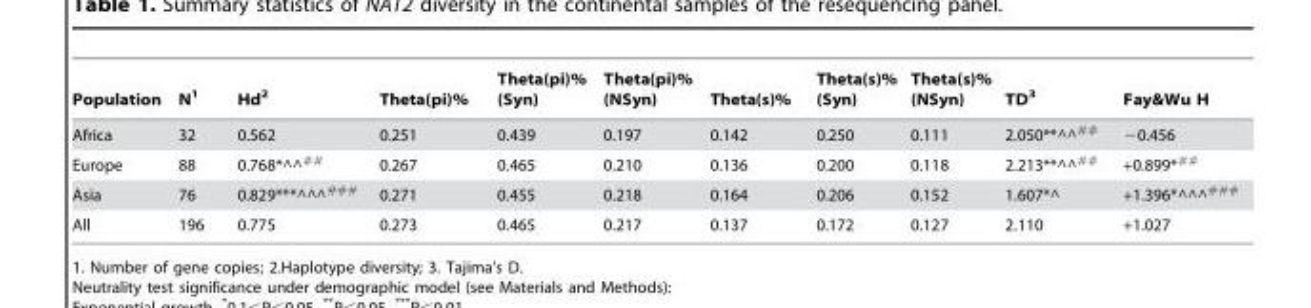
<table><thead><tr><td>Population</td><td>N<sup>1</sup></td><td>Hd<sup>2</sup></td><td>Theta(pi)%</td><td>Theta(pi)% (Syn)</td><td>Theta(pi)% (NSyn)</td><td>Theta(s)%</td><td>Theta(s)% (Syn)</td><td>Theta(s)% (NSyn)</td><td>TD<sup>3</sup></td><td>Fay&amp;Wu H</td></tr></thead><tbody><tr><td>Africa</td><td>32</td><td>0.562</td><td>0.251</td><td>0.439</td><td>0.197</td><td>0.142</td><td>0.250</td><td>0.111</td><td>2.050**^^##</td><td>−0.456</td></tr><tr><td>Europe</td><td>88</td><td>0.768*^^##</td><td>0.267</td><td>0.465</td><td>0.210</td><td>0.136</td><td>0.200</td><td>0.118</td><td>2.213**^^##</td><td>+0.899*<sup>##</sup></td></tr><tr><td>Asia</td><td>76</td><td>0.829***^^^###</td><td>0.271</td><td>0.455</td><td>0.218</td><td>0.164</td><td>0.206</td><td>0.152</td><td>1.607*^</td><td>+1.396*^^^###</td></tr><tr><td>All</td><td>196</td><td>0.775</td><td>0.273</td><td>0.465</td><td>0.217</td><td>0.137</td><td>0.172</td><td>0.127</td><td>2.110</td><td>+1.027</td></tr></tbody></table>